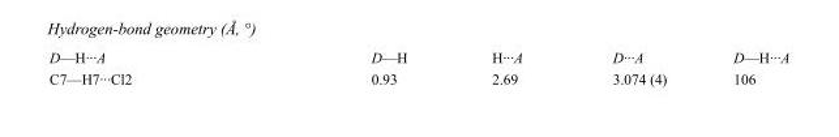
<table><tbody><tr><td>D—H···A</td><td>D—H</td><td>H···A</td><td>D···A</td><td>D—H···A</td></tr><tr><td>C7—H7···Cl2</td><td>0.93</td><td>2.69</td><td>3.074 (4)</td><td>106</td></tr></tbody></table>